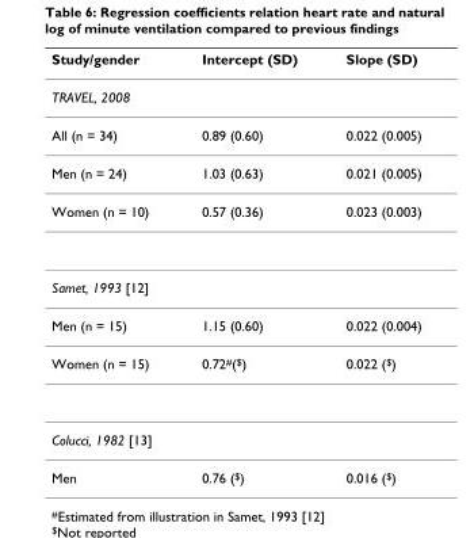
<table><thead><tr><td>Study/gender</td><td>Intercept (SD)</td><td>Slope (SD)</td></tr></thead><tbody><tr><td colspan="3">TRAVEL, 2008</td></tr><tr><td>All (n = 34)</td><td>0.89 (0.60)</td><td>0.022 (0.005)</td></tr><tr><td>Men (n = 24)</td><td>1.03 (0.63)</td><td>0.021 (0.005)</td></tr><tr><td>Women (n = 10)</td><td>0.57 (0.36)</td><td>0.023 (0.003)</td></tr><tr><td colspan="3">Samet, 1993 [12]</td></tr><tr><td>Men (n = 15)</td><td>1.15 (0.60)</td><td>0.022 (0.004)</td></tr><tr><td>Women (n = 15)</td><td>0.72#($)</td><td>0.022 ($)</td></tr><tr><td colspan="3">Colucci, 1982 [13]</td></tr><tr><td>Men</td><td>0.76 ($)</td><td>0.016 ($)</td></tr></tbody></table>